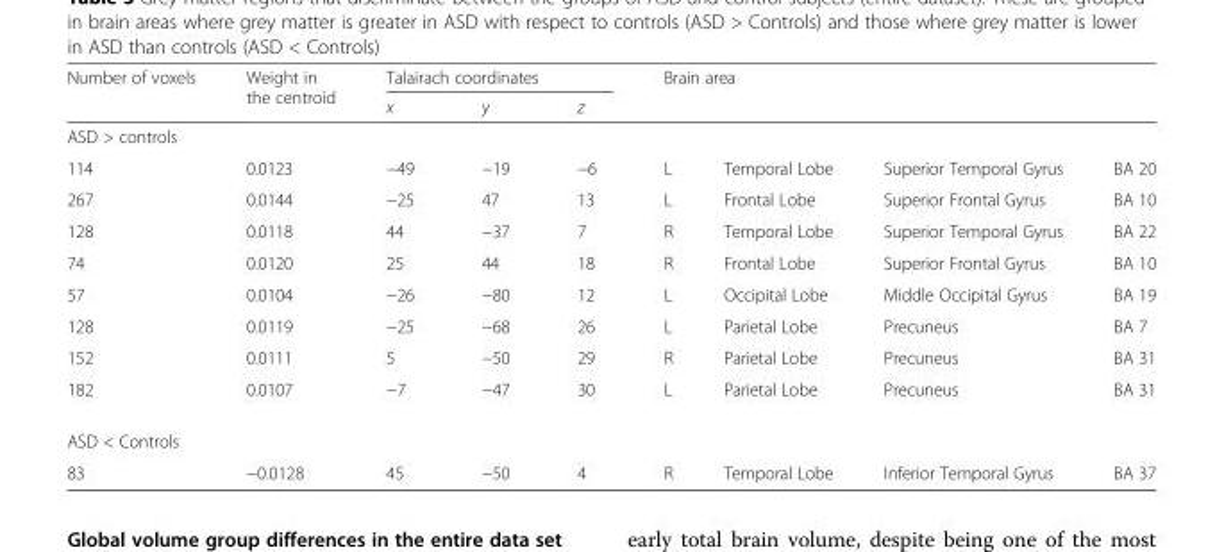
<table><thead><tr><td rowspan="4">Number of voxels ASD &gt; controls 114</td><td rowspan="2">Weight in the centroid</td><td colspan="3">Talairach coordinates</td><td rowspan="2" colspan="4">Brain area</td></tr><tr><td>x</td><td>y</td><td>z</td></tr><tr><td colspan="8"></td></tr><tr><td>0.0123</td><td>−49</td><td>−19</td><td>−6</td><td>L</td><td>Temporal Lobe</td><td>Superior Temporal Gyrus</td><td>BA 20</td></tr></thead><tbody><tr><td>267</td><td>0.0144</td><td>−25</td><td>47</td><td>13</td><td>L</td><td>Frontal Lobe</td><td>Superior Frontal Gyrus</td><td>BA 10</td></tr><tr><td>128</td><td>0.0118</td><td>44</td><td>−37</td><td>7</td><td>R</td><td>Temporal Lobe</td><td>Superior Temporal Gyrus</td><td>BA 22</td></tr><tr><td>74</td><td>0.0120</td><td>25</td><td>44</td><td>18</td><td>R</td><td>Frontal Lobe</td><td>Superior Frontal Gyrus</td><td>BA 10</td></tr><tr><td>57</td><td>0.0104</td><td>−26</td><td>−80</td><td>12</td><td>L</td><td>Occipital Lobe</td><td>Middle Occipital Gyrus</td><td>BA 19</td></tr><tr><td>128</td><td>0.0119</td><td>−25</td><td>−68</td><td>26</td><td>L</td><td>Parietal Lobe</td><td>Precuneus</td><td>BA 7</td></tr><tr><td>152</td><td>0.0111</td><td>5</td><td>−50</td><td>29</td><td>R</td><td>Parietal Lobe</td><td>Precuneus</td><td>BA 31</td></tr><tr><td>182</td><td>0.0107</td><td>−7</td><td>−47</td><td>30</td><td>L</td><td>Parietal Lobe</td><td>Precuneus</td><td>BA 31</td></tr><tr><td colspan="9">ASD &lt; Controls</td></tr><tr><td>83</td><td>−0.0128</td><td>45</td><td>−50</td><td>4</td><td>R</td><td>Temporal Lobe</td><td>Inferior Temporal Gyrus</td><td>BA 37</td></tr></tbody></table>